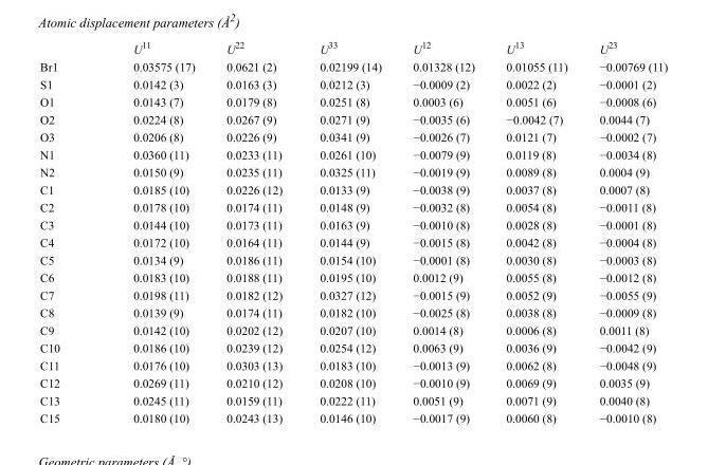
<table><thead><tr><td></td><td>U<sup>11</sup></td><td>U<sup>22</sup></td><td>U<sup>33</sup></td><td>U<sup>12</sup></td><td>U<sup>13</sup></td><td>U<sup>23</sup></td></tr></thead><tbody><tr><td>Br1</td><td>0.03575 (17)</td><td>0.0621 (2)</td><td>0.02199 (14)</td><td>0.01328 (12)</td><td>0.01055 (11)</td><td>−0.00769 (11)</td></tr><tr><td>S1</td><td>0.0142 (3)</td><td>0.0163 (3)</td><td>0.0212 (3)</td><td>−0.0009 (2)</td><td>0.0022 (2)</td><td>−0.0001 (2)</td></tr><tr><td>O1</td><td>0.0143 (7)</td><td>0.0179 (8)</td><td>0.0251 (8)</td><td>0.0003 (6)</td><td>0.0051 (6)</td><td>−0.0008 (6)</td></tr><tr><td>O2</td><td>0.0224 (8)</td><td>0.0267 (9)</td><td>0.0271 (9)</td><td>−0.0035 (6)</td><td>−0.0042 (7)</td><td>0.0044 (7)</td></tr><tr><td>O3</td><td>0.0206 (8)</td><td>0.0226 (9)</td><td>0.0341 (9)</td><td>−0.0026 (7)</td><td>0.0121 (7)</td><td>−0.0002 (7)</td></tr><tr><td>N1</td><td>0.0360 (11)</td><td>0.0233 (11)</td><td>0.0261 (10)</td><td>−0.0079 (9)</td><td>0.0119 (8)</td><td>−0.0034 (8)</td></tr><tr><td>N2</td><td>0.0150 (9)</td><td>0.0235 (11)</td><td>0.0325 (11)</td><td>−0.0019 (9)</td><td>0.0089 (8)</td><td>0.0004 (9)</td></tr><tr><td>C1</td><td>0.0185 (10)</td><td>0.0226 (12)</td><td>0.0133 (9)</td><td>−0.0038 (9)</td><td>0.0037 (8)</td><td>0.0007 (8)</td></tr><tr><td>C2</td><td>0.0178 (10)</td><td>0.0174 (11)</td><td>0.0148 (9)</td><td>−0.0032 (8)</td><td>0.0054 (8)</td><td>−0.0011 (8)</td></tr><tr><td>C3</td><td>0.0144 (10)</td><td>0.0173 (11)</td><td>0.0163 (9)</td><td>−0.0010 (8)</td><td>0.0028 (8)</td><td>−0.0001 (8)</td></tr><tr><td>C4</td><td>0.0172 (10)</td><td>0.0164 (11)</td><td>0.0144 (9)</td><td>−0.0015 (8)</td><td>0.0042 (8)</td><td>−0.0004 (8)</td></tr><tr><td>C5</td><td>0.0134 (9)</td><td>0.0186 (11)</td><td>0.0154 (10)</td><td>−0.0001 (8)</td><td>0.0030 (8)</td><td>−0.0003 (8)</td></tr><tr><td>C6</td><td>0.0183 (10)</td><td>0.0188 (11)</td><td>0.0195 (10)</td><td>0.0012 (9)</td><td>0.0055 (8)</td><td>−0.0012 (8)</td></tr><tr><td>C7</td><td>0.0198 (11)</td><td>0.0182 (12)</td><td>0.0327 (12)</td><td>−0.0015 (9)</td><td>0.0052 (9)</td><td>−0.0055 (9)</td></tr><tr><td>C8</td><td>0.0139 (9)</td><td>0.0174 (11)</td><td>0.0182 (10)</td><td>−0.0025 (8)</td><td>0.0038 (8)</td><td>−0.0009 (8)</td></tr><tr><td>C9</td><td>0.0142 (10)</td><td>0.0202 (12)</td><td>0.0207 (10)</td><td>0.0014 (8)</td><td>0.0006 (8)</td><td>0.0011 (8)</td></tr><tr><td>C10</td><td>0.0186 (10)</td><td>0.0239 (12)</td><td>0.0254 (12)</td><td>0.0063 (9)</td><td>0.0036 (9)</td><td>−0.0042 (9)</td></tr><tr><td>C11</td><td>0.0176 (10)</td><td>0.0303 (13)</td><td>0.0183 (10)</td><td>−0.0013 (9)</td><td>0.0062 (8)</td><td>−0.0048 (9)</td></tr><tr><td>C12</td><td>0.0269 (11)</td><td>0.0210 (12)</td><td>0.0208 (10)</td><td>−0.0010 (9)</td><td>0.0069 (9)</td><td>0.0035 (9)</td></tr><tr><td>C13</td><td>0.0245 (11)</td><td>0.0159 (11)</td><td>0.0222 (11)</td><td>0.0051 (9)</td><td>0.0071 (9)</td><td>0.0040 (8)</td></tr><tr><td>C15</td><td>0.0180 (10)</td><td>0.0243 (13)</td><td>0.0146 (10)</td><td>−0.0017 (9)</td><td>0.0060 (8)</td><td>−0.0010 (8)</td></tr></tbody></table>